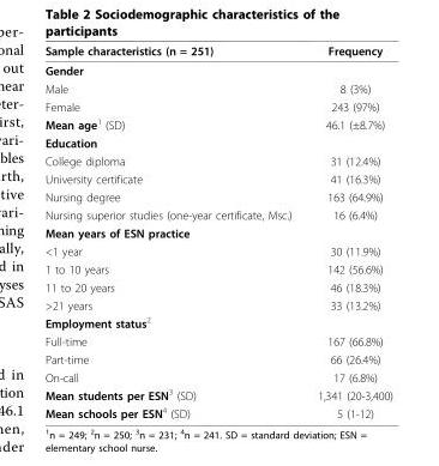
<table><thead><tr><td>Sample characteristics (n = 251)</td><td>Frequency</td></tr></thead><tbody><tr><td colspan="2">Gender</td></tr><tr><td>Male</td><td>8 (3%)</td></tr><tr><td>Female</td><td>243 (97%)</td></tr><tr><td>Mean age<sup>1</sup> (SD)</td><td>46.1 (±8.7%)</td></tr><tr><td colspan="2">Education</td></tr><tr><td>College diploma</td><td>31 (12.4%)</td></tr><tr><td>University certificate</td><td>41 (16.3%)</td></tr><tr><td>Nursing degree</td><td>163 (64.9%)</td></tr><tr><td>Nursing superior studies (one-year certificate, Msc.)</td><td>16 (6.4%)</td></tr><tr><td colspan="2">Mean years of ESN practice</td></tr><tr><td>&lt;1 year</td><td>30 (11.9%)</td></tr><tr><td>1 to 10 years</td><td>142 (56.6%)</td></tr><tr><td>11 to 20 years</td><td>46 (18.3%)</td></tr><tr><td>&gt;21 years</td><td>33 (13.2%)</td></tr><tr><td colspan="2">Employment status<sup>2</sup></td></tr><tr><td>Full-time</td><td>167 (66.8%)</td></tr><tr><td>Part-time</td><td>66 (26.4%)</td></tr><tr><td>On-call</td><td>17 (6.8%)</td></tr><tr><td>Mean students per ESN<sup>3</sup> (SD)</td><td>1,341 (20-3,400)</td></tr><tr><td>Mean schools per ESN<sup>4</sup> (SD)</td><td>5 (1-12)</td></tr></tbody></table>